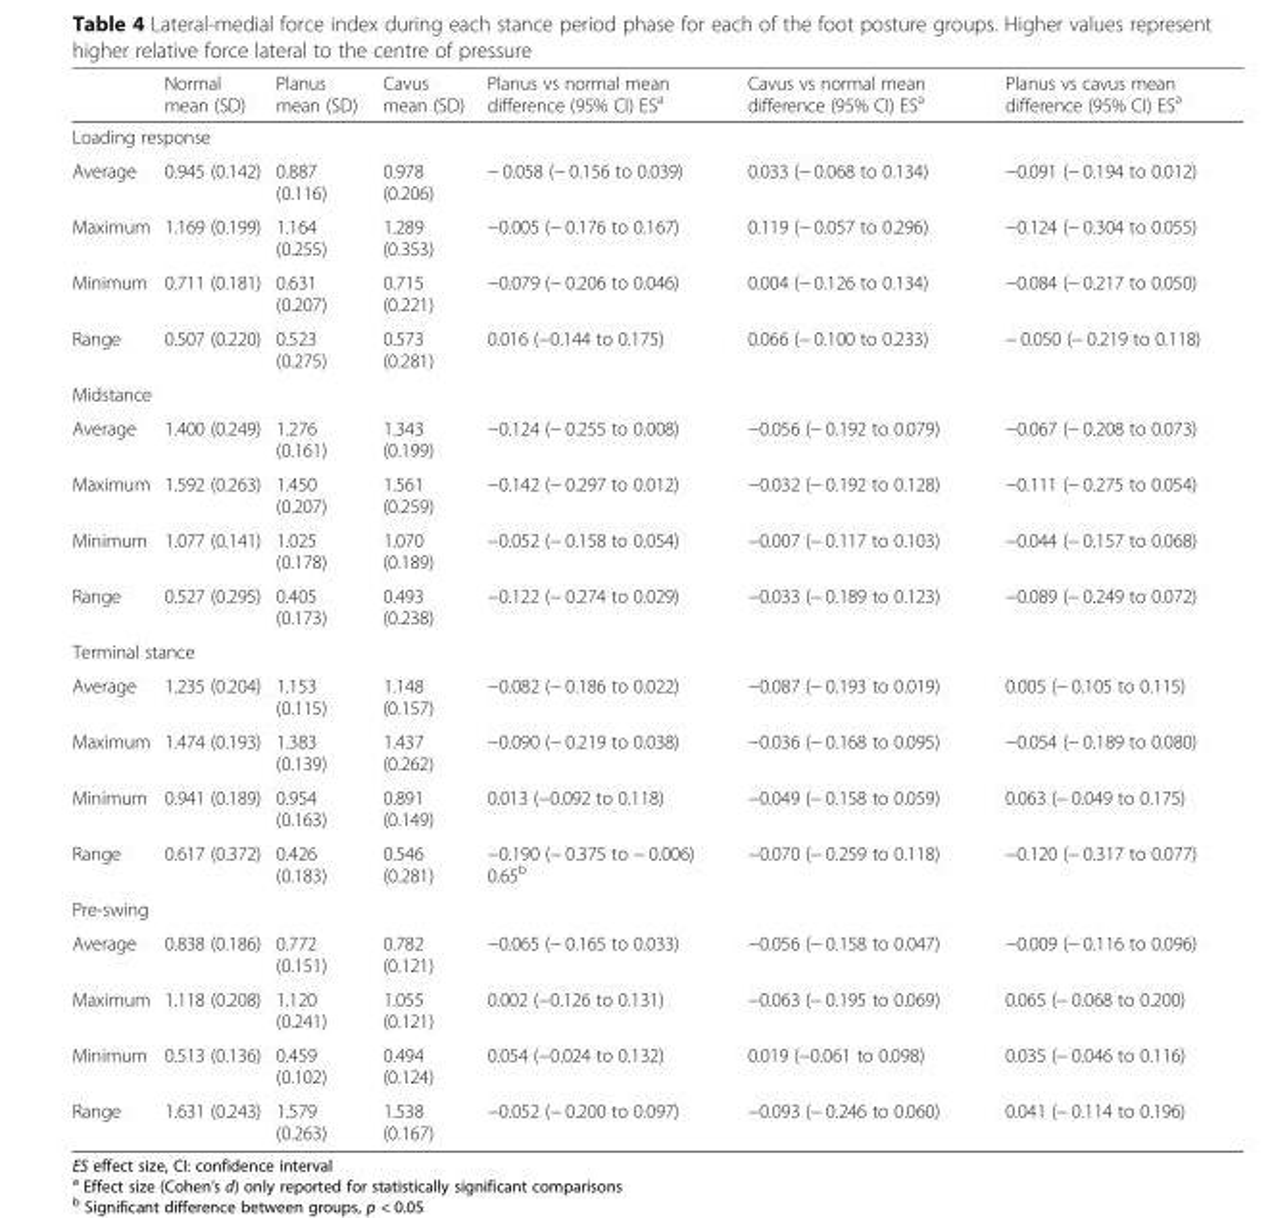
<table><thead><tr><td></td><td>Normal mean (SD)</td><td>Planus mean (SD)</td><td>Cavus mean (SD)</td><td>Planus vs normal mean difference (95% CI) ES<sup>a</sup></td><td>Cavus vs normal mean difference (95% CI) ES<sup>a</sup></td><td>Planus vs cavus mean difference (95% CI) ES<sup>a</sup></td></tr></thead><tbody><tr><td colspan="7">Loading response</td></tr><tr><td>Average</td><td>0.945 (0.142)</td><td>0.887 (0.116)</td><td>0.978 (0.206)</td><td>− 0.058 (− 0.156 to 0.039)</td><td>0.033 (− 0.068 to 0.134)</td><td>−0.091 (− 0.194 to 0.012)</td></tr><tr><td>Maximum</td><td>1.169 (0.199)</td><td>1.164 (0.255)</td><td>1.289 (0.353)</td><td>−0.005 (− 0.176 to 0.167)</td><td>0.119 (− 0.057 to 0.296)</td><td>−0.124 (− 0.304 to 0.055)</td></tr><tr><td>Minimum</td><td>0.711 (0.181)</td><td>0.631 (0.207)</td><td>0.715 (0.221)</td><td>−0.079 (− 0.206 to 0.046)</td><td>0.004 (− 0.126 to 0.134)</td><td>−0.084 (− 0.217 to 0.050)</td></tr><tr><td>Range</td><td>0.507 (0.220)</td><td>0.523 (0.275)</td><td>0.573 (0.281)</td><td>0.016 (−0.144 to 0.175)</td><td>0.066 (− 0.100 to 0.233)</td><td>− 0.050 (− 0.219 to 0.118)</td></tr><tr><td colspan="7">Midstance</td></tr><tr><td>Average</td><td>1.400 (0.249)</td><td>1.276 (0.161)</td><td>1.343 (0.199)</td><td>−0.124 (− 0.255 to 0.008)</td><td>−0.056 (− 0.192 to 0.079)</td><td>−0.067 (− 0.208 to 0.073)</td></tr><tr><td>Maximum</td><td>1.592 (0.263)</td><td>1.450 (0.207)</td><td>1.561 (0.259)</td><td>−0.142 (− 0.297 to 0.012)</td><td>−0.032 (− 0.192 to 0.128)</td><td>−0.111 (− 0.275 to 0.054)</td></tr><tr><td>Minimum</td><td>1.077 (0.141)</td><td>1.025 (0.178)</td><td>1.070 (0.189)</td><td>−0.052 (− 0.158 to 0.054)</td><td>−0.007 (− 0.117 to 0.103)</td><td>−0.044 (− 0.157 to 0.068)</td></tr><tr><td>Range</td><td>0.527 (0.295)</td><td>0.405 (0.173)</td><td>0.493 (0.238)</td><td>−0.122 (− 0.274 to 0.029)</td><td>−0.033 (− 0.189 to 0.123)</td><td>−0.089 (− 0.249 to 0.072)</td></tr><tr><td colspan="7">Terminal stance</td></tr><tr><td>Average</td><td>1.235 (0.204)</td><td>1.153 (0.115)</td><td>1.148 (0.157)</td><td>−0.082 (− 0.186 to 0.022)</td><td>−0.087 (− 0.193 to 0.019)</td><td>0.005 (− 0.105 to 0.115)</td></tr><tr><td>Maximum</td><td>1.474 (0.193)</td><td>1.383 (0.139)</td><td>1.437 (0.262)</td><td>−0.090 (− 0.219 to 0.038)</td><td>−0.036 (− 0.168 to 0.095)</td><td>−0.054 (− 0.189 to 0.080)</td></tr><tr><td>Minimum</td><td>0.941 (0.189)</td><td>0.954 (0.163)</td><td>0.891 (0.149)</td><td>0.013 (−0.092 to 0.118)</td><td>−0.049 (− 0.158 to 0.059)</td><td>0.063 (− 0.049 to 0.175)</td></tr><tr><td>Range</td><td>0.617 (0.372)</td><td>0.426 (0.183)</td><td>0.546 (0.281)</td><td>−0.190 (− 0.375 to − 0.006) 0.65<sup>b</sup></td><td>−0.070 (− 0.259 to 0.118)</td><td>−0.120 (− 0.317 to 0.077)</td></tr><tr><td colspan="7">Pre-swing</td></tr><tr><td>Average</td><td>0.838 (0.186)</td><td>0.772 (0.151)</td><td>0.782 (0.121)</td><td>−0.065 (− 0.165 to 0.033)</td><td>−0.056 (− 0.158 to 0.047)</td><td>−0.009 (− 0.116 to 0.096)</td></tr><tr><td>Maximum</td><td>1.118 (0.208)</td><td>1.120 (0.241)</td><td>1.055 (0.121)</td><td>0.002 (−0.126 to 0.131)</td><td>−0.063 (− 0.195 to 0.069)</td><td>0.065 (− 0.068 to 0.200)</td></tr><tr><td>Minimum</td><td>0.513 (0.136)</td><td>0.459 (0.102)</td><td>0.494 (0.124)</td><td>0.054 (−0.024 to 0.132)</td><td>0.019 (−0.061 to 0.098)</td><td>0.035 (− 0.046 to 0.116)</td></tr><tr><td>Range</td><td>1.631 (0.243)</td><td>1.579 (0.263)</td><td>1.538 (0.167)</td><td>−0.052 (− 0.200 to 0.097)</td><td>−0.093 (− 0.246 to 0.060)</td><td>0.041 (− 0.114 to 0.196)</td></tr></tbody></table>